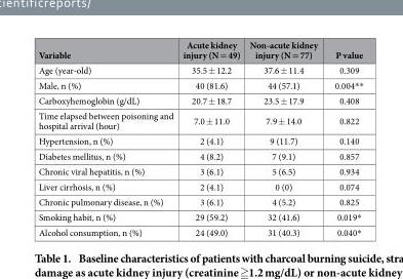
<table><thead><tr><td>Variable</td><td>Acute kidney injury (N = 49)</td><td>Non-acute kidney injury (N = 77)</td><td>P value</td></tr></thead><tbody><tr><td>Age (year-old)</td><td>35.5 ± 12.2</td><td>37.6 ± 11.4</td><td>0.309</td></tr><tr><td>Male, n (%)</td><td>40 (81.6)</td><td>44 (57.1)</td><td>0.004* *</td></tr><tr><td>Carboxyhemoglobin (g/dL)</td><td>20.7 ± 18.7</td><td>23.5 ± 17.9</td><td>0.408</td></tr><tr><td>Time elapsed between poisoning and hospital arrival (hour)</td><td>7.0 ± 11.0</td><td>7.9 ± 14.0</td><td>0.822</td></tr><tr><td>Hypertension, n (%)</td><td>2 (4.1)</td><td>9 (11.7)</td><td>0.140</td></tr><tr><td>Diabetes mellitus, n (%)</td><td>4 (8.2)</td><td>7 (9.1)</td><td>0.857</td></tr><tr><td>Chronic viral hepatitis, n (%)</td><td>3 (6.1)</td><td>5 (6.5)</td><td>0.934</td></tr><tr><td>Liver cirrhosis, n (%)</td><td>2 (4.1)</td><td>0 (0)</td><td>0.074</td></tr><tr><td>Chronic pulmonary disease, n (%)</td><td>3 (6.1)</td><td>4 (5.2)</td><td>0.825</td></tr><tr><td>Smoking habit, n (%)</td><td>29 (59.2)</td><td>32 (41.6)</td><td>0.019*</td></tr><tr><td>Alcohol consumption, n (%)</td><td>24 (49.0)</td><td>31 (40.3)</td><td>0.040*</td></tr></tbody></table>